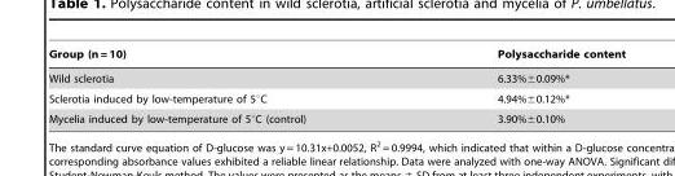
<table><thead><tr><td>Group (n = 10)</td><td>Polysaccharide content</td></tr></thead><tbody><tr><td>Wild sclerotia</td><td>6.33%±0.09%*</td></tr><tr><td>Sclerotia induced by low-temperature of 5°C</td><td>4.94%±0.12%*</td></tr><tr><td>Mycelia induced by low-temperature of 5°C (control)</td><td>3.90%±0.10%</td></tr></tbody></table>